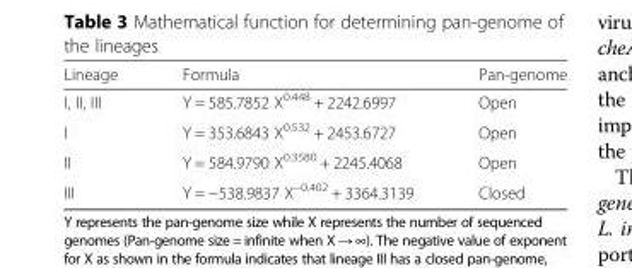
<table><thead><tr><td>Lineage</td><td>Formula</td><td>Pan-genome</td></tr></thead><tbody><tr><td>I, II, III</td><td>Y = 585.7852 X<sup>0.448</sup> + 2242.6997</td><td>Open</td></tr><tr><td>I</td><td>Y = 353.6843 X<sup>0.532</sup> + 2453.6727</td><td>Open</td></tr><tr><td>II</td><td>Y = 584.9790 X<sup>0.3580</sup> + 2245.4068</td><td>Open</td></tr><tr><td>III</td><td>Y = −538.9837 X<sup>−0.402</sup> + 3364.3139</td><td>Closed</td></tr></tbody></table>